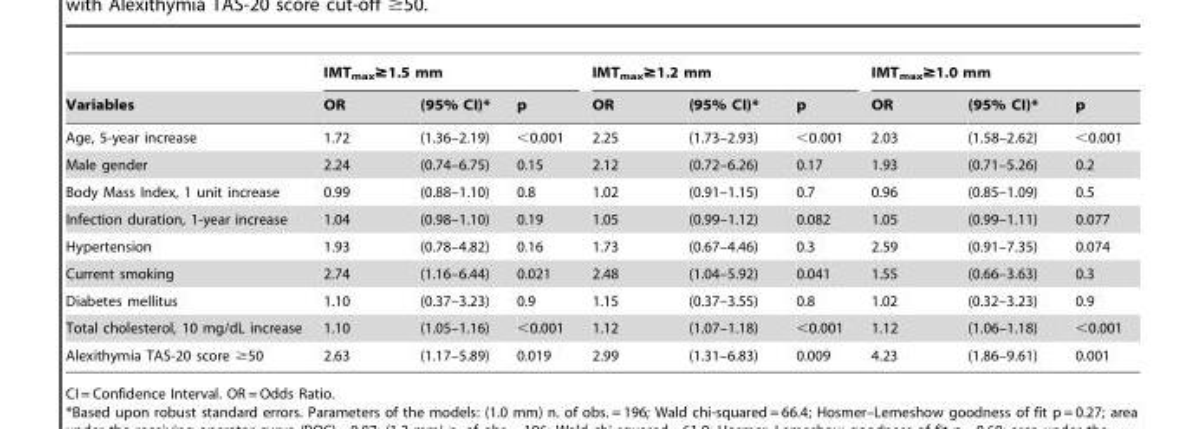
<table><thead><tr><td rowspan="2">Variables</td><td colspan="3">IMT<sub>max</sub>≥1.5 mm</td><td colspan="3">IMT<sub>max</sub>≥1.2 mm</td><td colspan="3">IMT<sub>max</sub>≥1.0 mm</td></tr><tr><td>OR</td><td>(95% CI)*</td><td>p</td><td>OR</td><td>(95% CI)*</td><td>p</td><td>OR</td><td>(95% CI)*</td><td>p</td></tr></thead><tbody><tr><td>Age, 5-year increase</td><td>1.72</td><td>(1.36–2.19)</td><td>&lt;0.001</td><td>2.25</td><td>(1.73–2.93)</td><td>&lt;0.001</td><td>2.03</td><td>(1.58–2.62)</td><td>&lt;0.001</td></tr><tr><td>Male gender</td><td>2.24</td><td>(0.74–6.75)</td><td>0.15</td><td>2.12</td><td>(0.72–6.26)</td><td>0.17</td><td>1.93</td><td>(0.71–5.26)</td><td>0.2</td></tr><tr><td>Body Mass Index, 1 unit increase</td><td>0.99</td><td>(0.88–1.10)</td><td>0.8</td><td>1.02</td><td>(0.91–1.15)</td><td>0.7</td><td>0.96</td><td>(0.85–1.09)</td><td>0.5</td></tr><tr><td>Infection duration, 1-year increase</td><td>1.04</td><td>(0.98–1.10)</td><td>0.19</td><td>1.05</td><td>(0.99–1.12)</td><td>0.082</td><td>1.05</td><td>(0.99–1.11)</td><td>0.077</td></tr><tr><td>Hypertension</td><td>1.93</td><td>(0.78–4.82)</td><td>0.16</td><td>1.73</td><td>(0.67–4.46)</td><td>0.3</td><td>2.59</td><td>(0.91–7.35)</td><td>0.074</td></tr><tr><td>Current smoking</td><td>2.74</td><td>(1.16–6.44)</td><td>0.021</td><td>2.48</td><td>(1.04–5.92)</td><td>0.041</td><td>1.55</td><td>(0.66–3.63)</td><td>0.3</td></tr><tr><td>Diabetes mellitus</td><td>1.10</td><td>(0.37–3.23)</td><td>0.9</td><td>1.15</td><td>(0.37–3.55)</td><td>0.8</td><td>1.02</td><td>(0.32–3.23)</td><td>0.9</td></tr><tr><td>Total cholesterol, 10 mg/dL increase</td><td>1.10</td><td>(1.05–1.16)</td><td>&lt;0.001</td><td>1.12</td><td>(1.07–1.18)</td><td>&lt;0.001</td><td>1.12</td><td>(1.06–1.18)</td><td>&lt;0.001</td></tr><tr><td>Alexithymia TAS-20 score ≥50</td><td>2.63</td><td>(1.17–5.89)</td><td>0.019</td><td>2.99</td><td>(1.31–6.83)</td><td>0.009</td><td>4.23</td><td>(1.86–9.61)</td><td>0.001</td></tr></tbody></table>